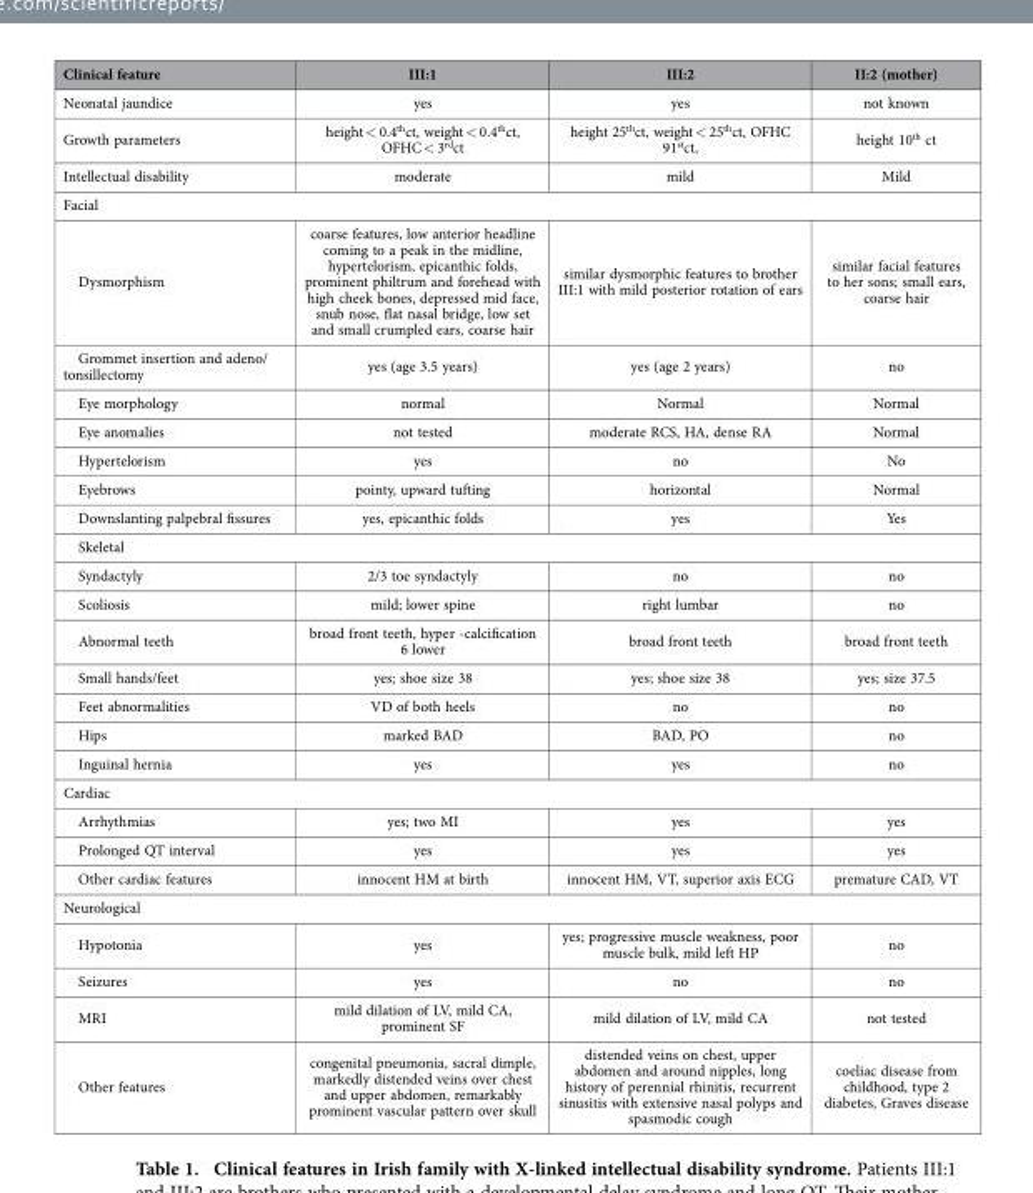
<table><thead><tr><td>Clinical feature</td><td>III:1</td><td>III:2</td><td>II:2 (mother)</td></tr></thead><tbody><tr><td>Neonatal jaundice</td><td>yes</td><td>yes</td><td>not known</td></tr><tr><td>Growth parameters</td><td>height &lt; 0.4<sup>th</sup>ct, weight &lt; 0.4<sup>th</sup>ct, OFHC &lt; 3<sup>rd</sup>ct</td><td>height 25<sup>th</sup>ct, weight &lt; 25<sup>th</sup>ct, OFHC 91<sup>st</sup>ct,</td><td>height 10<sup>th</sup> ct</td></tr><tr><td>Intellectual disability</td><td>moderate</td><td>mild</td><td>Mild</td></tr><tr><td colspan="4">Facial</td></tr><tr><td>Dysmorphism</td><td>coarse features, low anterior headline coming to a peak in the midline, hypertelorism, epicanthic folds, prominent philtrum and forehead with high cheek bones, depressed mid face, snub nose, flat nasal bridge, low set and small crumpled ears, coarse hair</td><td>similar dysmorphic features to brother III:1 with mild posterior rotation of ears</td><td>similar facial features to her sons; small ears, coarse hair</td></tr><tr><td>Grommet insertion and adeno/ tonsillectomy</td><td>yes (age 3.5 years)</td><td>yes (age 2 years)</td><td>no</td></tr><tr><td>Eye morphology</td><td>normal</td><td>Normal</td><td>Normal</td></tr><tr><td>Eye anomalies</td><td>not tested</td><td>moderate RCS, HA, dense RA</td><td>Normal</td></tr><tr><td>Hypertelorism</td><td>yes</td><td>no</td><td>No</td></tr><tr><td>Eyebrows</td><td>pointy, upward tufting</td><td>horizontal</td><td>Normal</td></tr><tr><td>Downslanting palpebral fissures</td><td>yes, epicanthic folds</td><td>yes</td><td>Yes</td></tr><tr><td colspan="4">Skeletal</td></tr><tr><td>Syndactyly</td><td>2/3 toe syndactyly</td><td>no</td><td>no</td></tr><tr><td>Scoliosis</td><td>mild; lower spine</td><td>right lumbar</td><td>no</td></tr><tr><td>Abnormal teeth</td><td>broad front teeth, hyper -calcification 6 lower</td><td>broad front teeth</td><td>broad front teeth</td></tr><tr><td>Small hands/feet</td><td>yes; shoe size 38</td><td>yes; shoe size 38</td><td>yes; size 37.5</td></tr><tr><td>Feet abnormalities</td><td>VD of both heels</td><td>no</td><td>no</td></tr><tr><td>Hips</td><td>marked BAD</td><td>BAD, PO</td><td>no</td></tr><tr><td>Inguinal hernia</td><td>yes</td><td>yes</td><td>no</td></tr><tr><td colspan="4">Cardiac</td></tr><tr><td>Arrhythmias</td><td>yes; two MI</td><td>yes</td><td>yes</td></tr><tr><td>Prolonged QT interval</td><td>yes</td><td>yes</td><td>yes</td></tr><tr><td>Other cardiac features</td><td>innocent HM at birth</td><td>innocent HM, VT, superior axis ECG</td><td>premature CAD, VT</td></tr><tr><td colspan="4">Neurological</td></tr><tr><td>Hypotonia</td><td>yes</td><td>yes; progressive muscle weakness, poor muscle bulk, mild left HP</td><td>no</td></tr><tr><td>Seizures</td><td>yes</td><td>no</td><td>no</td></tr><tr><td>MRI</td><td>mild dilation of LV, mild CA, prominent SF</td><td>mild dilation of LV, mild CA</td><td>not tested</td></tr><tr><td>Other features</td><td>congenital pneumonia, sacral dimple, markedly distended veins over chest and upper abdomen, remarkably prominent vascular pattern over skull</td><td>distended veins on chest, upper abdomen and around nipples, long history of perennial rhinitis, recurrent sinusitis with extensive nasal polyps and spasmodic cough</td><td>coeliac disease from childhood, type 2 diabetes, Graves disease</td></tr></tbody></table>